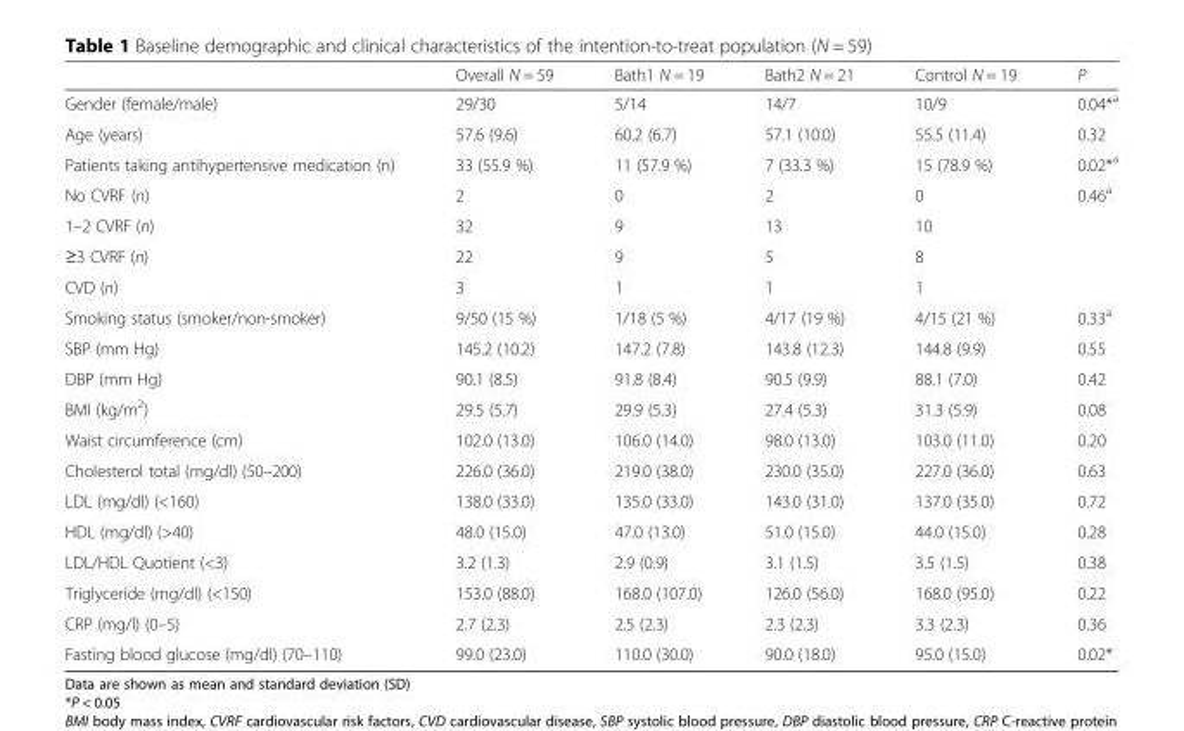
<table><thead><tr><td></td><td>Overall N = 59</td><td>Bath1 N = 19</td><td>Bath2 N = 21</td><td>Control N = 19</td><td>P</td></tr></thead><tbody><tr><td>Gender (female/male)</td><td>29/30</td><td>5/14</td><td>14/7</td><td>10/9</td><td>0.04*<sup>a</sup></td></tr><tr><td>Age (years)</td><td>57.6 (9.6)</td><td>60.2 (6.7)</td><td>57.1 (10.0)</td><td>55.5 (11.4)</td><td>0.32</td></tr><tr><td>Patients taking antihypertensive medication (n)</td><td>33 (55.9 %)</td><td>11 (57.9 %)</td><td>7 (33.3 %)</td><td>15 (78.9 %)</td><td>0.02*<sup>a</sup></td></tr><tr><td>No CVRF (n)</td><td>2</td><td>0</td><td>2</td><td>0</td><td rowspan="4">0.46<sup>a</sup></td></tr><tr><td>1–2 CVRF (n)</td><td>32</td><td>9</td><td>13</td><td>10</td></tr><tr><td>≥3 CVRF (n)</td><td>22</td><td>9</td><td>5</td><td>8</td></tr><tr><td>CVD (n)</td><td>3</td><td>1</td><td>1</td><td>1</td></tr><tr><td>Smoking status (smoker/non-smoker)</td><td>9/50 (15 %)</td><td>1/18 (5 %)</td><td>4/17 (19 %)</td><td>4/15 (21 %)</td><td>0.33<sup>a</sup></td></tr><tr><td>SBP (mm Hg)</td><td>145.2 (10.2)</td><td>147.2 (7.8)</td><td>143.8 (12.3)</td><td>144.8 (9.9)</td><td>0.55</td></tr><tr><td>DBP (mm Hg)</td><td>90.1 (8.5)</td><td>91.8 (8.4)</td><td>90.5 (9.9)</td><td>88.1 (7.0)</td><td>0.42</td></tr><tr><td>BMI (kg/m<sup>2</sup>)</td><td>29.5 (5.7)</td><td>29.9 (5.3)</td><td>27.4 (5.3)</td><td>31.3 (5.9)</td><td>0.08</td></tr><tr><td>Waist circumference (cm)</td><td>102.0 (13.0)</td><td>106.0 (14.0)</td><td>98.0 (13.0)</td><td>103.0 (11.0)</td><td>0.20</td></tr><tr><td>Cholesterol total (mg/dl) (50–200)</td><td>226.0 (36.0)</td><td>219.0 (38.0)</td><td>230.0 (35.0)</td><td>227.0 (36.0)</td><td>0.63</td></tr><tr><td>LDL (mg/dl) (&lt;160)</td><td>138.0 (33.0)</td><td>135.0 (33.0)</td><td>143.0 (31.0)</td><td>137.0 (35.0)</td><td>0.72</td></tr><tr><td>HDL (mg/dl) (&gt;40)</td><td>48.0 (15.0)</td><td>47.0 (13.0)</td><td>51.0 (15.0)</td><td>44.0 (15.0)</td><td>0.28</td></tr><tr><td>LDL/HDL Quotient (&lt;3)</td><td>3.2 (1.3)</td><td>2.9 (0.9)</td><td>3.1 (1.5)</td><td>3.5 (1.5)</td><td>0.38</td></tr><tr><td>Triglyceride (mg/dl) (&lt;150)</td><td>153.0 (88.0)</td><td>168.0 (107.0)</td><td>126.0 (56.0)</td><td>168.0 (95.0)</td><td>0.22</td></tr><tr><td>CRP (mg/l) (0–5)</td><td>2.7 (2.3)</td><td>2.5 (2.3)</td><td>2.3 (2.3)</td><td>3.3 (2.3)</td><td>0.36</td></tr><tr><td>Fasting blood glucose (mg/dl) (70–110)</td><td>99.0 (23.0)</td><td>110.0 (30.0)</td><td>90.0 (18.0)</td><td>95.0 (15.0)</td><td>0.02*</td></tr></tbody></table>